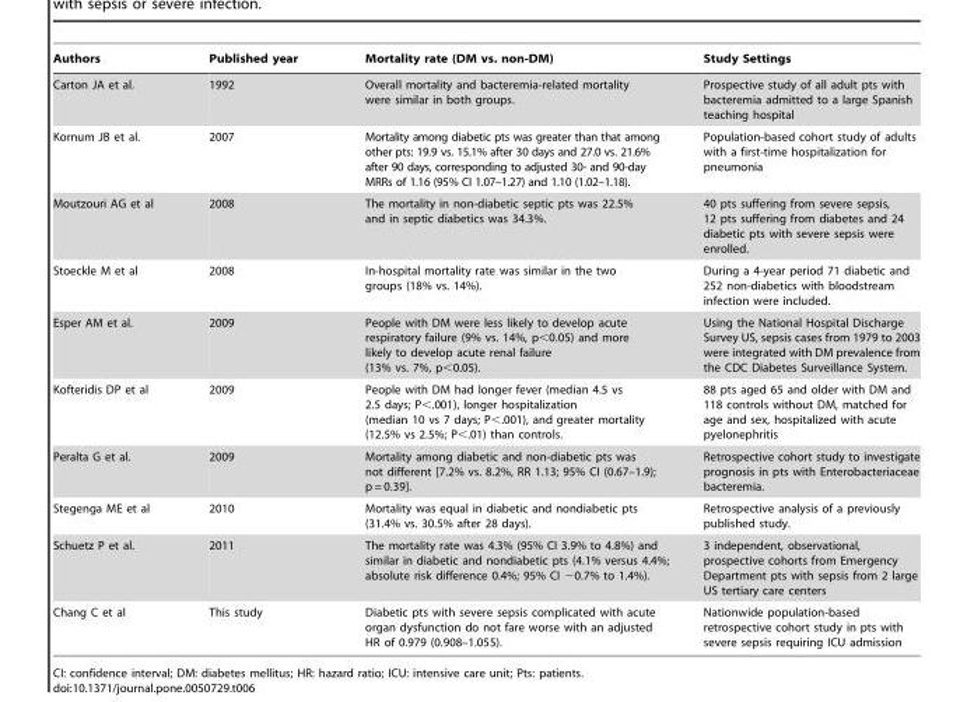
<table><thead><tr><td>Authors</td><td>Published year</td><td>Mortality rate (DM vs. non-DM)</td><td>Study Settings</td></tr></thead><tbody><tr><td>Carton JA et al.</td><td>1992</td><td>Overall mortality and bacteremia-related mortality were similar in both groups.</td><td>Prospective study of all adult pts with bacteremia admitted to a large Spanish teaching hospital</td></tr><tr><td>Kornum JB et al.</td><td>2007</td><td>Mortality among diabetic pts was greater than that among other pts: 19.9 vs. 15.1% after 30 days and 27.0 vs. 21.6% after 90 days, corresponding to adjusted 30- and 90-day MRRs of 1.16 (95% CI 1.07–1.27) and 1.10 (1.02–1.18).</td><td>Population-based cohort study of adults with a first-time hospitalization for pneumonia</td></tr><tr><td>Moutzouri AG et al</td><td>2008</td><td>The mortality in non-diabetic septic pts was 22.5% and in septic diabetics was 34.3%.</td><td>40 pts suffering from severe sepsis, 12 pts suffering from diabetes and 24 diabetic pts with severe sepsis were enrolled.</td></tr><tr><td>Stoeckle M et al</td><td>2008</td><td>In-hospital mortality rate was similar in the two groups (18% vs. 14%).</td><td>During a 4-year period 71 diabetic and 252 non-diabetics with bloodstream infection were included.</td></tr><tr><td>Esper AM et al.</td><td>2009</td><td>People with DM were less likely to develop acute respiratory failure (9% vs. 14%, p&lt;0.05) and more likely to develop acute renal failure (13% vs. 7%, p&lt;0.05).</td><td>Using the National Hospital Discharge Survey US, sepsis cases from 1979 to 2003 were integrated with DM prevalence from the CDC Diabetes Surveillance System.</td></tr><tr><td>Kofteridis DP et al</td><td>2009</td><td>People with DM had longer fever (median 4.5 vs 2.5 days; P&lt;.001), longer hospitalization (median 10 vs 7 days; P&lt;.001), and greater mortality (12.5% vs 2.5%; P&lt;.01) than controls.</td><td>88 pts aged 65 and older with DM and 118 controls without DM, matched for age and sex, hospitalized with acute pyelonephritis</td></tr><tr><td>Peralta G et al.</td><td>2009</td><td>Mortality among diabetic and non-diabetic pts was not different [7.2% vs. 8.2%, RR 1.13; 95% CI (0.67–1.9); p = 0.39].</td><td>Retrospective cohort study to investigate prognosis in pts with Enterobacteriaceae bacteremia.</td></tr><tr><td>Stegenga ME et al</td><td>2010</td><td>Mortality was equal in diabetic and nondiabetic pts (31.4% vs. 30.5% after 28 days).</td><td>Retrospective analysis of a previously published study.</td></tr><tr><td>Schuetz P et al.</td><td>2011</td><td>The mortality rate was 4.3% (95% CI 3.9% to 4.8%) and similar in diabetic and nondiabetic pts (4.1% versus 4.4%; absolute risk difference 0.4%; 95% CI −0.7% to 1.4%).</td><td>3 independent, observational, prospective cohorts from Emergency Department pts with sepsis from 2 large US tertiary care centers</td></tr><tr><td>Chang C et al</td><td>This study</td><td>Diabetic pts with severe sepsis complicated with acute organ dysfunction do not fare worse with an adjusted HR of 0.979 (0.908–1.055).</td><td>Nationwide population-based retrospective cohort study in pts with severe sepsis requiring ICU admission</td></tr></tbody></table>